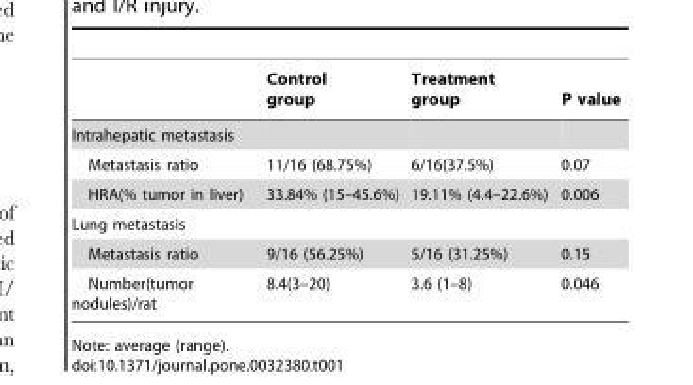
<table><thead><tr><td></td><td>Control group</td><td>Treatment group</td><td>P value</td></tr></thead><tbody><tr><td colspan="4">Intrahepatic metastasis</td></tr><tr><td>Metastasis ratio</td><td>11/16 (68.75%)</td><td>6/16(37.5%)</td><td>0.07</td></tr><tr><td>HRA(% tumor in liver)</td><td>33.84% (15–45.6%)</td><td>19.11% (4.4–22.6%)</td><td>0.006</td></tr><tr><td colspan="4">Lung metastasis</td></tr><tr><td>Metastasis ratio</td><td>9/16 (56.25%)</td><td>5/16 (31.25%)</td><td>0.15</td></tr><tr><td>Number(tumor nodules)/rat</td><td>8.4(3–20)</td><td>3.6 (1–8)</td><td>0.046</td></tr></tbody></table>